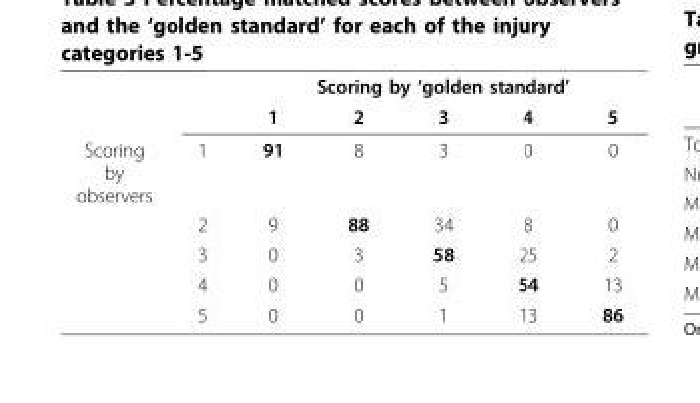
<table><thead><tr><td rowspan="2"></td><td rowspan="2"></td><td colspan="5">Scoring by ‘golden standard’</td></tr><tr><td>1</td><td>2</td><td>3</td><td>4</td><td>5</td></tr></thead><tbody><tr><td rowspan="5">Scoring by observers</td><td>1</td><td>91</td><td>8</td><td>3</td><td>0</td><td>0</td></tr><tr><td>2</td><td>9</td><td>88</td><td>34</td><td>8</td><td>0</td></tr><tr><td>3</td><td>0</td><td>3</td><td>58</td><td>25</td><td>2</td></tr><tr><td>4</td><td>0</td><td>0</td><td>5</td><td>54</td><td>13</td></tr><tr><td>5</td><td>0</td><td>0</td><td>1</td><td>13</td><td>86</td></tr></tbody></table>